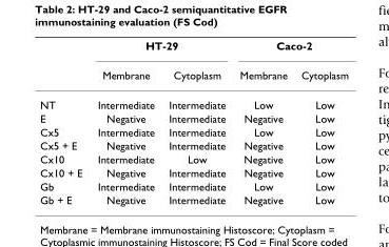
<table><thead><tr><td rowspan="2"></td><td colspan="2">HT-29</td><td colspan="2">Caco-2</td></tr><tr><td>Membrane</td><td>Cytoplasm</td><td>Membrane</td><td>Cytoplasm</td></tr></thead><tbody><tr><td>NT</td><td>Intermediate</td><td>Intermediate</td><td>Low</td><td>Low</td></tr><tr><td>E</td><td>Negative</td><td>Intermediate</td><td>Negative</td><td>Low</td></tr><tr><td>Cx5</td><td>Intermediate</td><td>Intermediate</td><td>Low</td><td>Low</td></tr><tr><td>Cx5 + E</td><td>Negative</td><td>Intermediate</td><td>Negative</td><td>Low</td></tr><tr><td>Cx10</td><td>Intermediate</td><td>Low</td><td>Negative</td><td>Low</td></tr><tr><td>Cx10 + E</td><td>Negative</td><td>Intermediate</td><td>Negative</td><td>Low</td></tr><tr><td>Gb</td><td>Intermediate</td><td>Intermediate</td><td>Low</td><td>Low</td></tr><tr><td>Gb + E</td><td>Negative</td><td>Intermediate</td><td>Negative</td><td>Low</td></tr></tbody></table>